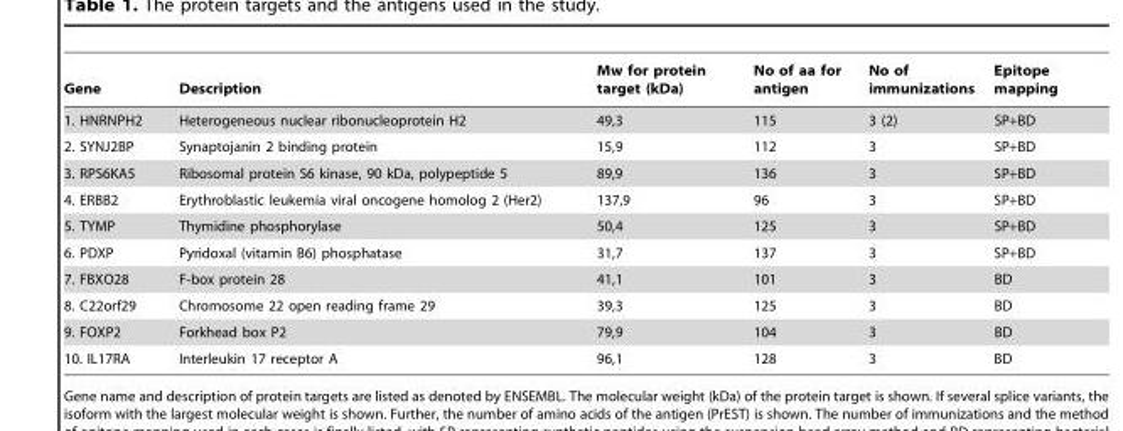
<table><thead><tr><td>Gene</td><td>Description</td><td>Mw for protein target (kDa)</td><td>No of aa for antigen</td><td>No of immunizations</td><td>Epitope mapping</td></tr></thead><tbody><tr><td>1. HNRNPH2</td><td>Heterogeneous nuclear ribonucleoprotein H2</td><td>49,3</td><td>115</td><td>3 (2)</td><td>SP+BD</td></tr><tr><td>2. SYNJ2BP</td><td>Synaptojanin 2 binding protein</td><td>15,9</td><td>112</td><td>3</td><td>SP+BD</td></tr><tr><td>3. RPS6KA5</td><td>Ribosomal protein S6 kinase, 90 kDa, polypeptide 5</td><td>89,9</td><td>136</td><td>3</td><td>SP+BD</td></tr><tr><td>4. ERBB2</td><td>Erythroblastic leukemia viral oncogene homolog 2 (Her2)</td><td>137,9</td><td>96</td><td>3</td><td>SP+BD</td></tr><tr><td>5. TYMP</td><td>Thymidine phosphorylase</td><td>50,4</td><td>125</td><td>3</td><td>SP+BD</td></tr><tr><td>6. PDXP</td><td>Pyridoxal (vitamin B6) phosphatase</td><td>31,7</td><td>137</td><td>3</td><td>SP+BD</td></tr><tr><td>7. FBXO28</td><td>F-box protein 28</td><td>41,1</td><td>101</td><td>3</td><td>BD</td></tr><tr><td>8. C22orf29</td><td>Chromosome 22 open reading frame 29</td><td>39,3</td><td>125</td><td>3</td><td>BD</td></tr><tr><td>9. FOXP2</td><td>Forkhead box P2</td><td>79,9</td><td>104</td><td>3</td><td>BD</td></tr><tr><td>10. IL17RA</td><td>Interleukin 17 receptor A</td><td>96,1</td><td>128</td><td>3</td><td>BD</td></tr></tbody></table>